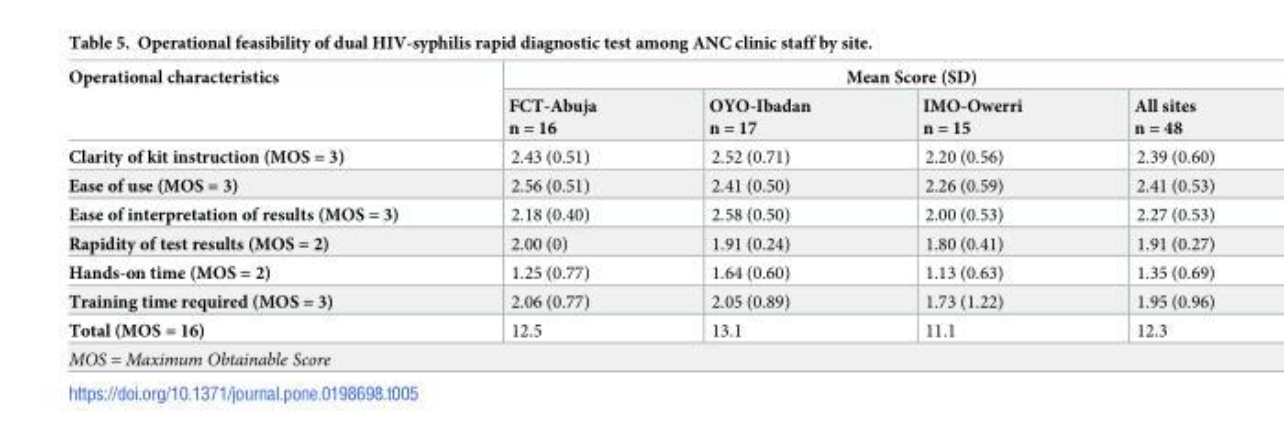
<table><thead><tr><td rowspan="2">Operational characteristics</td><td colspan="4">Mean Score (SD)</td></tr><tr><td>FCT-Abuja n = 16</td><td>OYO-Ibadan n = 17</td><td>IMO-Owerri n = 15</td><td>All sites n = 48</td></tr></thead><tbody><tr><td>Clarity of kit instruction (MOS = 3)</td><td>2.43 (0.51)</td><td>2.52 (0.71)</td><td>2.20 (0.56)</td><td>2.39 (0.60)</td></tr><tr><td>Ease of use (MOS = 3)</td><td>2.56 (0.51)</td><td>2.41 (0.50)</td><td>2.26 (0.59)</td><td>2.41 (0.53)</td></tr><tr><td>Ease of interpretation of results (MOS = 3)</td><td>2.18 (0.40)</td><td>2.58 (0.50)</td><td>2.00 (0.53)</td><td>2.27 (0.53)</td></tr><tr><td>Rapidity of test results (MOS = 2)</td><td>2.00 (0)</td><td>1.91 (0.24)</td><td>1.80 (0.41)</td><td>1.91 (0.27)</td></tr><tr><td>Hands-on time (MOS = 2)</td><td>1.25 (0.77)</td><td>1.64 (0.60)</td><td>1.13 (0.63)</td><td>1.35 (0.69)</td></tr><tr><td>Training time required (MOS = 3)</td><td>2.06 (0.77)</td><td>2.05 (0.89)</td><td>1.73 (1.22)</td><td>1.95 (0.96)</td></tr><tr><td>Total (MOS = 16)</td><td>12.5</td><td>13.1</td><td>11.1</td><td>12.3</td></tr><tr><td colspan="5">MOS = Maximum Obtainable Score</td></tr></tbody></table>